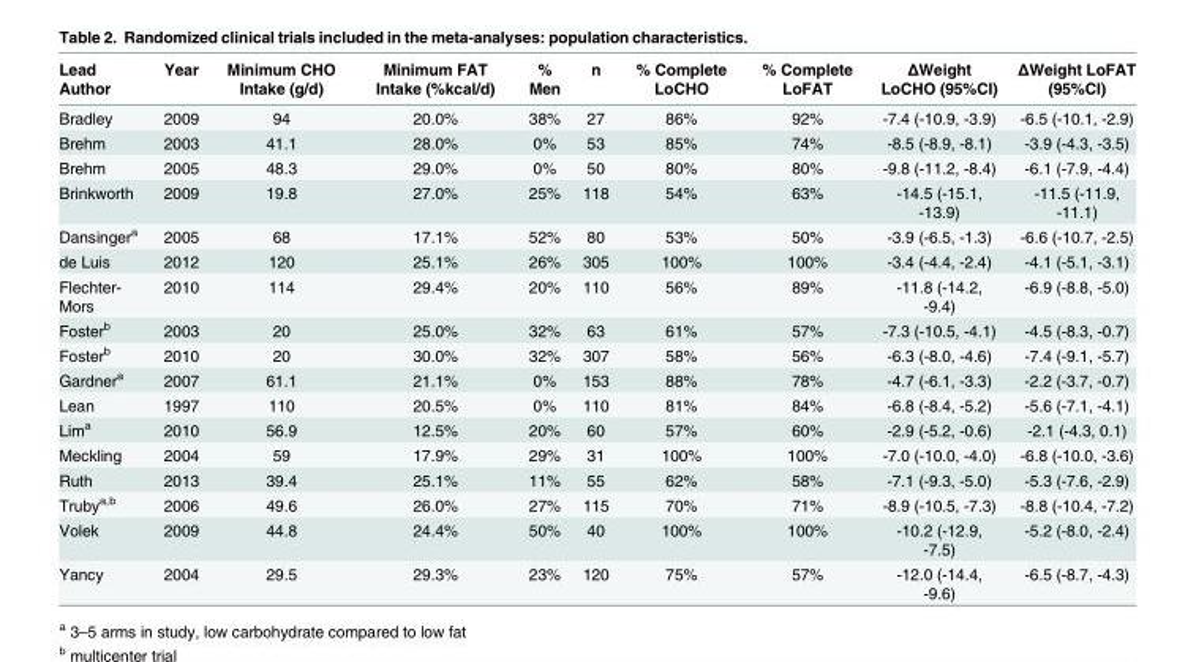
<table><thead><tr><td>Lead Author</td><td>Year</td><td>Minimum CHO Intake (g/d)</td><td>Minimum FAT Intake (%kcal/d)</td><td>% Men</td><td>n</td><td>% Complete LoCHO</td><td>% Complete LoFAT</td><td>ΔWeight LoCHO (95%CI)</td><td>ΔWeight LoFAT (95%CI)</td></tr></thead><tbody><tr><td>Bradley</td><td>2009</td><td>94</td><td>20.0%</td><td>38%</td><td>27</td><td>86%</td><td>92%</td><td>-7.4 (-10.9, -3.9)</td><td>-6.5 (-10.1, -2.9)</td></tr><tr><td>Brehm</td><td>2003</td><td>41.1</td><td>28.0%</td><td>0%</td><td>53</td><td>85%</td><td>74%</td><td>-8.5 (-8.9, -8.1)</td><td>-3.9 (-4.3, -3.5)</td></tr><tr><td>Brehm</td><td>2005</td><td>48.3</td><td>29.0%</td><td>0%</td><td>50</td><td>80%</td><td>80%</td><td>-9.8 (-11.2, -8.4)</td><td>-6.1 (-7.9, -4.4)</td></tr><tr><td>Brinkworth</td><td>2009</td><td>19.8</td><td>27.0%</td><td>25%</td><td>118</td><td>54%</td><td>63%</td><td>-14.5 (-15.1, -13.9)</td><td>-11.5 (-11.9, -11.1)</td></tr><tr><td>Dansinger<sup>a</sup></td><td>2005</td><td>68</td><td>17.1%</td><td>52%</td><td>80</td><td>53%</td><td>50%</td><td>-3.9 (-6.5, -1.3)</td><td>-6.6 (-10.7, -2.5)</td></tr><tr><td>de Luis</td><td>2012</td><td>120</td><td>25.1%</td><td>26%</td><td>305</td><td>100%</td><td>100%</td><td>-3.4 (-4.4, -2.4)</td><td>-4.1 (-5.1, -3.1)</td></tr><tr><td>Flechter- Mors</td><td>2010</td><td>114</td><td>29.4%</td><td>20%</td><td>110</td><td>56%</td><td>89%</td><td>-11.8 (-14.2, -9.4)</td><td>-6.9 (-8.8, -5.0)</td></tr><tr><td>Foster<sup>b</sup></td><td>2003</td><td>20</td><td>25.0%</td><td>32%</td><td>63</td><td>61%</td><td>57%</td><td>-7.3 (-10.5, -4.1)</td><td>-4.5 (-8.3, -0.7)</td></tr><tr><td>Foster<sup>b</sup></td><td>2010</td><td>20</td><td>30.0%</td><td>32%</td><td>307</td><td>58%</td><td>56%</td><td>-6.3 (-8.0, -4.6)</td><td>-7.4 (-9.1, -5.7)</td></tr><tr><td>Gardner<sup>a</sup></td><td>2007</td><td>61.1</td><td>21.1%</td><td>0%</td><td>153</td><td>88%</td><td>78%</td><td>-4.7 (-6.1, -3.3)</td><td>-2.2 (-3.7, -0.7)</td></tr><tr><td>Lean</td><td>1997</td><td>110</td><td>20.5%</td><td>0%</td><td>110</td><td>81%</td><td>84%</td><td>-6.8 (-8.4, -5.2)</td><td>-5.6 (-7.1, -4.1)</td></tr><tr><td>Lim<sup>a</sup></td><td>2010</td><td>56.9</td><td>12.5%</td><td>20%</td><td>60</td><td>57%</td><td>60%</td><td>-2.9 (-5.2, -0.6)</td><td>-2.1 (-4.3, 0.1)</td></tr><tr><td>Meckling</td><td>2004</td><td>59</td><td>17.9%</td><td>29%</td><td>31</td><td>100%</td><td>100%</td><td>-7.0 (-10.0, -4.0)</td><td>-6.8 (-10.0, -3.6)</td></tr><tr><td>Ruth</td><td>2013</td><td>39.4</td><td>25.1%</td><td>11%</td><td>55</td><td>62%</td><td>58%</td><td>-7.1 (-9.3, -5.0)</td><td>-5.3 (-7.6, -2.9)</td></tr><tr><td>Truby<sup>a,b</sup></td><td>2006</td><td>49.6</td><td>26.0%</td><td>27%</td><td>115</td><td>70%</td><td>71%</td><td>-8.9 (-10.5, -7.3)</td><td>-8.8 (-10.4, -7.2)</td></tr><tr><td>Volek</td><td>2009</td><td>44.8</td><td>24.4%</td><td>50%</td><td>40</td><td>100%</td><td>100%</td><td>-10.2 (-12.9, -7.5)</td><td>-5.2 (-8.0, -2.4)</td></tr><tr><td>Yancy</td><td>2004</td><td>29.5</td><td>29.3%</td><td>23%</td><td>120</td><td>75%</td><td>57%</td><td>-12.0 (-14.4, -9.6)</td><td>-6.5 (-8.7, -4.3)</td></tr></tbody></table>